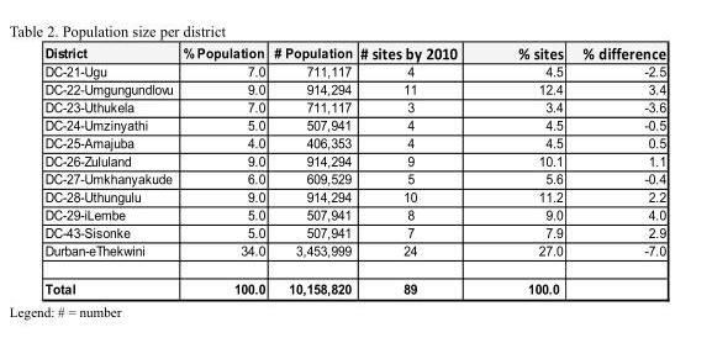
<table><thead><tr><td>District</td><td>% Population</td><td># Population</td><td># sites by 2010</td><td>% sites</td><td>% difference</td></tr></thead><tbody><tr><td>DC-21-Ugu</td><td>7.0</td><td>711,117</td><td>4</td><td>4.5</td><td>-2.5</td></tr><tr><td>DC-22-Umgungundlovu</td><td>9.0</td><td>914,294</td><td>11</td><td>12.4</td><td>3.4</td></tr><tr><td>DC-23-Uthukela</td><td>7.0</td><td>711,117</td><td>3</td><td>3.4</td><td>-3.6</td></tr><tr><td>DC-24-Umzinyathi</td><td>5.0</td><td>507,941</td><td>4</td><td>4.5</td><td>-0.5</td></tr><tr><td>DC-25-Amajuba</td><td>4.0</td><td>406,353</td><td>4</td><td>4.5</td><td>0.5</td></tr><tr><td>DC-26-Zululand</td><td>9.0</td><td>914,294</td><td>9</td><td>10.1</td><td>1.1</td></tr><tr><td>DC-27-Umkhanyakude</td><td>6.0</td><td>609,529</td><td>5</td><td>5.6</td><td>-0.4</td></tr><tr><td>DC-28-Uthungulu</td><td>9.0</td><td>914,294</td><td>10</td><td>11.2</td><td>2.2</td></tr><tr><td>DC-29-iLembe</td><td>5.0</td><td>507,941</td><td>8</td><td>9.0</td><td>4.0</td></tr><tr><td>DC-43-Sisonke</td><td>5.0</td><td>507,941</td><td>7</td><td>7.9</td><td>2.9</td></tr><tr><td>Durban-eThekwini</td><td>34.0</td><td>3,453,999</td><td>24</td><td>27.0</td><td>-7.0</td></tr><tr><td>Total</td><td>100.0</td><td>10,158,820</td><td>89</td><td>100.0</td><td></td></tr></tbody></table>